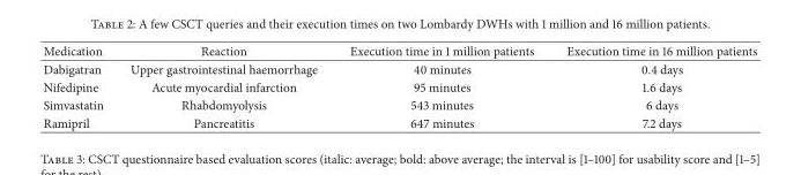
<table><thead><tr><td>Medication</td><td>Reaction</td><td>Execution time in 1 million patients</td><td>Execution time in 16 million patients</td></tr></thead><tbody><tr><td>Dabigatran</td><td>Upper gastrointestinal haemorrhage</td><td>40 minutes</td><td>0.4 days</td></tr><tr><td>Nifedipine</td><td>Acute myocardial infarction</td><td>95 minutes</td><td>1.6 days</td></tr><tr><td>Simvastatin</td><td>Rhabdomyolysis</td><td>543 minutes</td><td>6 days</td></tr><tr><td>Ramipril</td><td>Pancreatitis</td><td>647 minutes</td><td>7.2 days</td></tr></tbody></table>